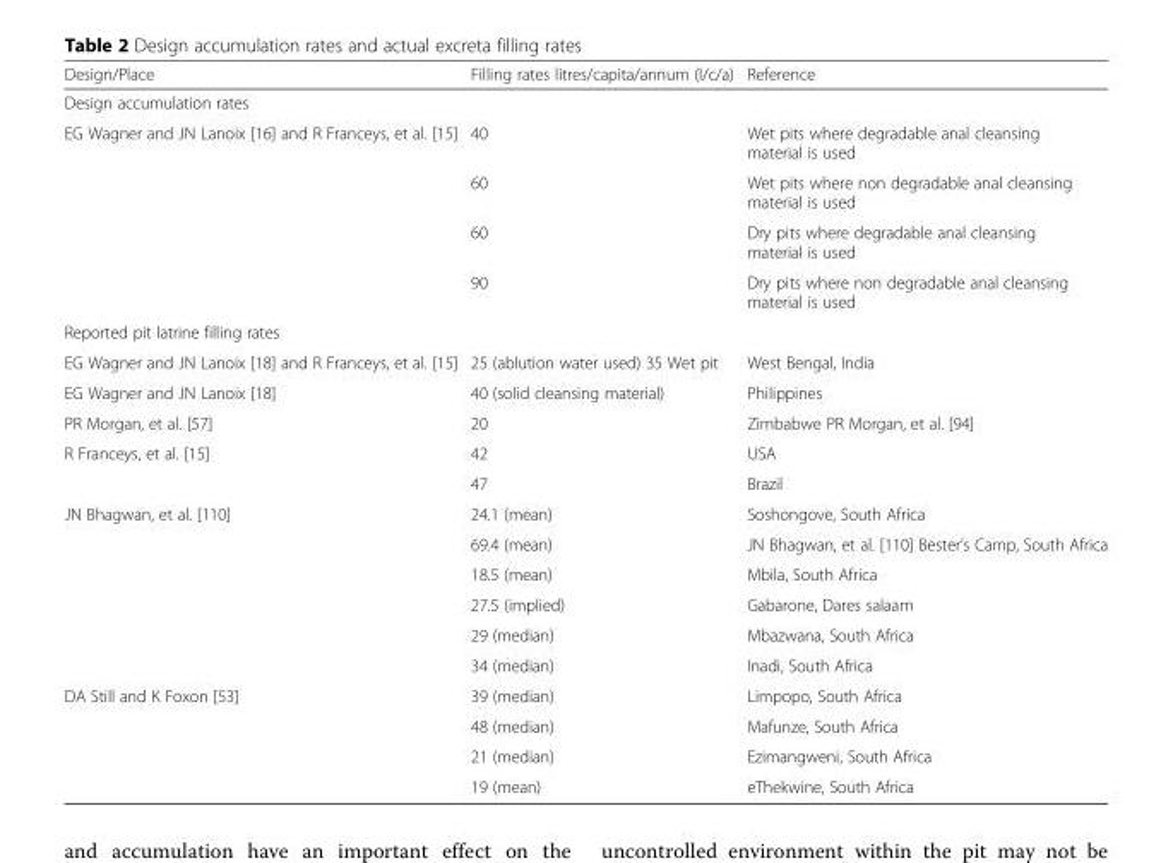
<table><thead><tr><td>Design/Place</td><td>Filling rates litres/capita/annum (l/c/a)</td><td>Reference</td></tr></thead><tbody><tr><td colspan="3">Design accumulation rates</td></tr><tr><td rowspan="4">EG Wagner and JN Lanoix [16] and R Franceys, et al. [15]</td><td>40</td><td>Wet pits where degradable anal cleansing material is used</td></tr><tr><td>60</td><td>Wet pits where non degradable anal cleansing material is used</td></tr><tr><td>60</td><td>Dry pits where degradable anal cleansing material is used</td></tr><tr><td>90</td><td>Dry pits where non degradable anal cleansing material is used</td></tr><tr><td colspan="3">Reported pit latrine filling rates</td></tr><tr><td>EG Wagner and JN Lanoix [18] and R Franceys, et al. [15]</td><td>25 (ablution water used) 35 Wet pit</td><td>West Bengal, India</td></tr><tr><td>EG Wagner and JN Lanoix [18]</td><td>40 (solid cleansing material)</td><td>Philippines</td></tr><tr><td>PR Morgan, et al. [57]</td><td>20</td><td>Zimbabwe PR Morgan, et al. [94]</td></tr><tr><td rowspan="2">R Franceys, et al. [15]</td><td>42</td><td>USA</td></tr><tr><td>47</td><td>Brazil</td></tr><tr><td rowspan="6">JN Bhagwan, et al. [110]</td><td>24.1 (mean)</td><td>Soshongove, South Africa</td></tr><tr><td>69.4 (mean)</td><td>JN Bhagwan, et al. [110] Bester’s Camp, South Africa</td></tr><tr><td>18.5 (mean)</td><td>Mbila, South Africa</td></tr><tr><td>27.5 (implied)</td><td>Gabarone, Dares salaam</td></tr><tr><td>29 (median)</td><td>Mbazwana, South Africa</td></tr><tr><td>34 (median)</td><td>Inadi, South Africa</td></tr><tr><td rowspan="4">DA Still and K Foxon [53]</td><td>39 (median)</td><td>Limpopo, South Africa</td></tr><tr><td>48 (median)</td><td>Mafunze, South Africa</td></tr><tr><td>21 (median)</td><td>Ezimangweni, South Africa</td></tr><tr><td>19 (mean)</td><td>eThekwine, South Africa</td></tr></tbody></table>